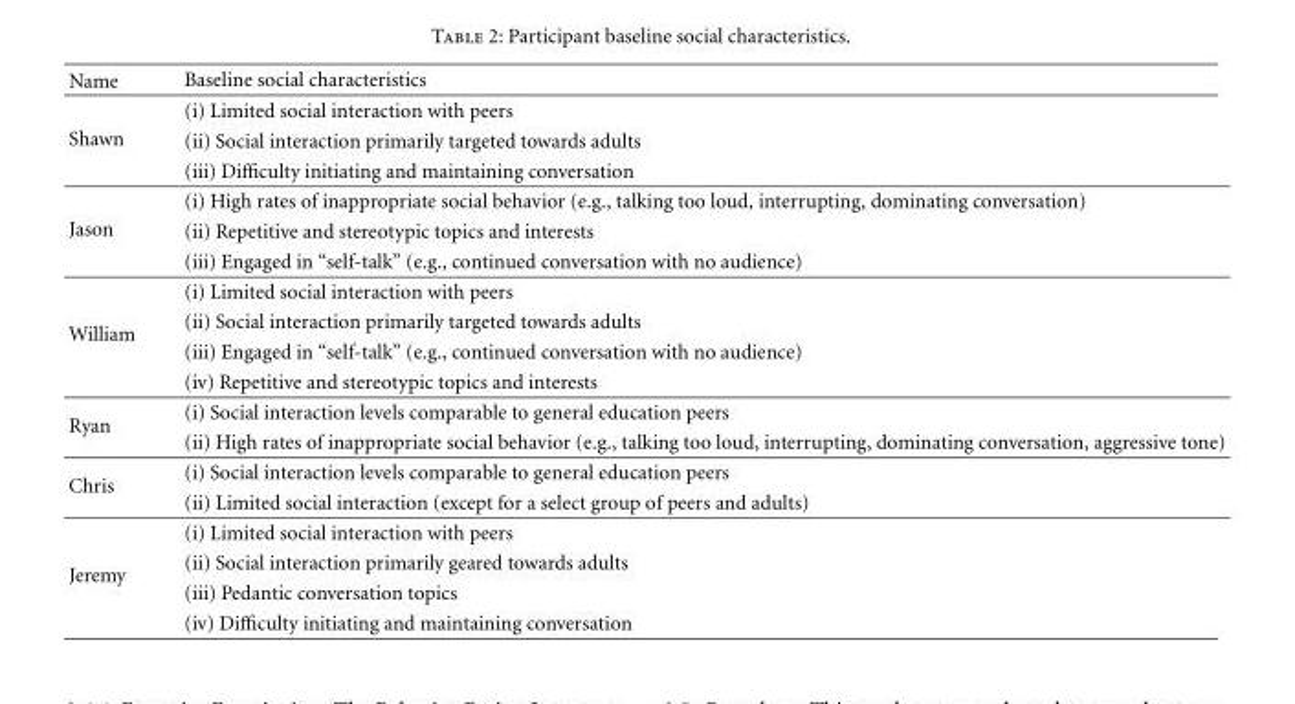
<table><thead><tr><td>Name</td><td>Baseline social characteristics</td></tr></thead><tbody><tr><td rowspan="3">Shawn</td><td>(i) Limited social interaction with peers</td></tr><tr><td>(ii) Social interaction primarily targeted towards adults</td></tr><tr><td>(iii) Difficulty initiating and maintaining conversation</td></tr><tr><td rowspan="3">Jason</td><td>(i) High rates of inappropriate social behavior (e.g., talking too loud, interrupting, dominating conversation)</td></tr><tr><td>(ii) Repetitive and stereotypic topics and interests</td></tr><tr><td>(iii) Engaged in “self-talk” (e.g., continued conversation with no audience)</td></tr><tr><td rowspan="4">William</td><td>(i) Limited social interaction with peers</td></tr><tr><td>(ii) Social interaction primarily targeted towards adults</td></tr><tr><td>(iii) Engaged in “self-talk” (e.g., continued conversation with no audience)</td></tr><tr><td>(iv) Repetitive and stereotypic topics and interests</td></tr><tr><td rowspan="2">Ryan</td><td>(i) Social interaction levels comparable to general education peers</td></tr><tr><td>(ii) High rates of inappropriate social behavior (e.g., talking too loud, interrupting, dominating conversation, aggressive tone)</td></tr><tr><td rowspan="2">Chris</td><td>(i) Social interaction levels comparable to general education peers</td></tr><tr><td>(ii) Limited social interaction (except for a select group of peers and adults)</td></tr><tr><td rowspan="4">Jeremy</td><td>(i) Limited social interaction with peers</td></tr><tr><td>(ii) Social interaction primarily geared towards adults</td></tr><tr><td>(iii) Pedantic conversation topics</td></tr><tr><td>(iv) Difficulty initiating and maintaining conversation</td></tr></tbody></table>